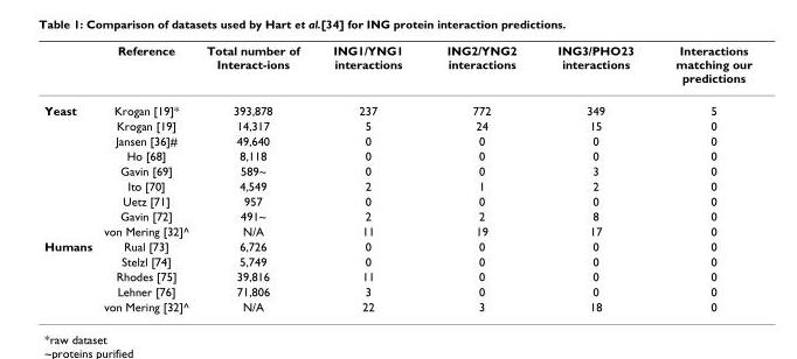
<table><thead><tr><td></td><td>Reference</td><td>Total number of Interact-ions</td><td>ING1/YNG1 interactions</td><td>ING2/YNG2 interactions</td><td>ING3/PHO23 interactions</td><td>Interactions matching our predictions</td></tr></thead><tbody><tr><td rowspan="9">Yeast</td><td>Krogan [19]*</td><td>393,878</td><td>237</td><td>772</td><td>349</td><td>5</td></tr><tr><td>Krogan [19]</td><td>14,317</td><td>5</td><td>24</td><td>15</td><td>0</td></tr><tr><td>Jansen [36]#</td><td>49,640</td><td>0</td><td>0</td><td>0</td><td>0</td></tr><tr><td>Ho [68]</td><td>8,118</td><td>0</td><td>0</td><td>0</td><td>0</td></tr><tr><td>Gavin [69]</td><td>589~</td><td>0</td><td>0</td><td>3</td><td>0</td></tr><tr><td>Ito [70]</td><td>4,549</td><td>2</td><td>1</td><td>2</td><td>0</td></tr><tr><td>Uetz [71]</td><td>957</td><td>0</td><td>0</td><td>0</td><td>0</td></tr><tr><td>Gavin [72]</td><td>491~</td><td>2</td><td>2</td><td>8</td><td>0</td></tr><tr><td>von Mering [32]^</td><td>N/A</td><td>11</td><td>19</td><td>17</td><td>0</td></tr><tr><td rowspan="5">Humans</td><td>Rual [73]</td><td>6,726</td><td>0</td><td>0</td><td>0</td><td>0</td></tr><tr><td>Stelzl [74]</td><td>5,749</td><td>0</td><td>0</td><td>0</td><td>0</td></tr><tr><td>Rhodes [75]</td><td>39,816</td><td>11</td><td>0</td><td>0</td><td>0</td></tr><tr><td>Lehner [76]</td><td>71,806</td><td>3</td><td>0</td><td>0</td><td>0</td></tr><tr><td>von Mering [32]^</td><td>N/A</td><td>22</td><td>3</td><td>18</td><td>0</td></tr></tbody></table>